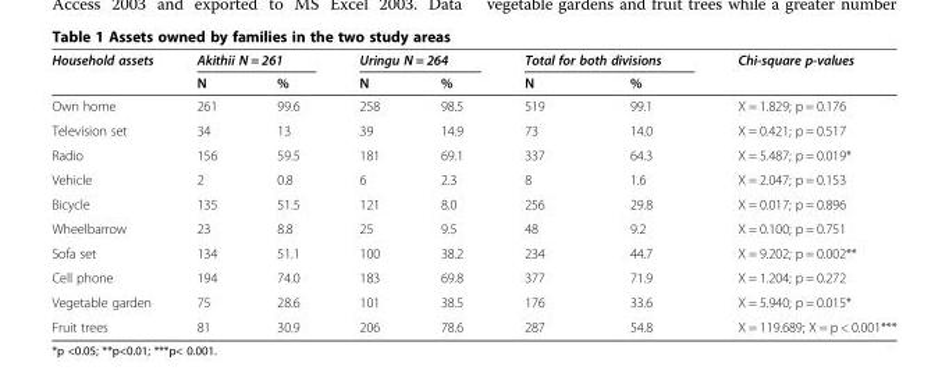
<table><thead><tr><td rowspan="2">Household assets</td><td colspan="2">Akithii N = 261</td><td colspan="2">Uringu N = 264</td><td colspan="2">Total for both divisions</td><td rowspan="2">Chi-square p-values</td></tr><tr><td>N</td><td>%</td><td>N</td><td>%</td><td>N</td><td>%</td></tr></thead><tbody><tr><td>Own home</td><td>261</td><td>99.6</td><td>258</td><td>98.5</td><td>519</td><td>99.1</td><td>Χ = 1.829; p = 0.176</td></tr><tr><td>Television set</td><td>34</td><td>13</td><td>39</td><td>14.9</td><td>73</td><td>14.0</td><td>Χ = 0.421; p = 0.517</td></tr><tr><td>Radio</td><td>156</td><td>59.5</td><td>181</td><td>69.1</td><td>337</td><td>64.3</td><td>Χ = 5.487; p = 0.019*</td></tr><tr><td>Vehicle</td><td>2</td><td>0.8</td><td>6</td><td>2.3</td><td>8</td><td>1.6</td><td>Χ = 2.047; p = 0.153</td></tr><tr><td>Bicycle</td><td>135</td><td>51.5</td><td>121</td><td>8.0</td><td>256</td><td>29.8</td><td>Χ = 0.017; p = 0.896</td></tr><tr><td>Wheelbarrow</td><td>23</td><td>8.8</td><td>25</td><td>9.5</td><td>48</td><td>9.2</td><td>Χ = 0.100; p = 0.751</td></tr><tr><td>Sofa set</td><td>134</td><td>51.1</td><td>100</td><td>38.2</td><td>234</td><td>44.7</td><td>Χ = 9.202; p = 0.002**</td></tr><tr><td>Cell phone</td><td>194</td><td>74.0</td><td>183</td><td>69.8</td><td>377</td><td>71.9</td><td>Χ = 1.204; p = 0.272</td></tr><tr><td>Vegetable garden</td><td>75</td><td>28.6</td><td>101</td><td>38.5</td><td>176</td><td>33.6</td><td>Χ = 5.940; p = 0.015*</td></tr><tr><td>Fruit trees</td><td>81</td><td>30.9</td><td>206</td><td>78.6</td><td>287</td><td>54.8</td><td>Χ = 119.689; Χ = p &lt; 0.001***</td></tr></tbody></table>